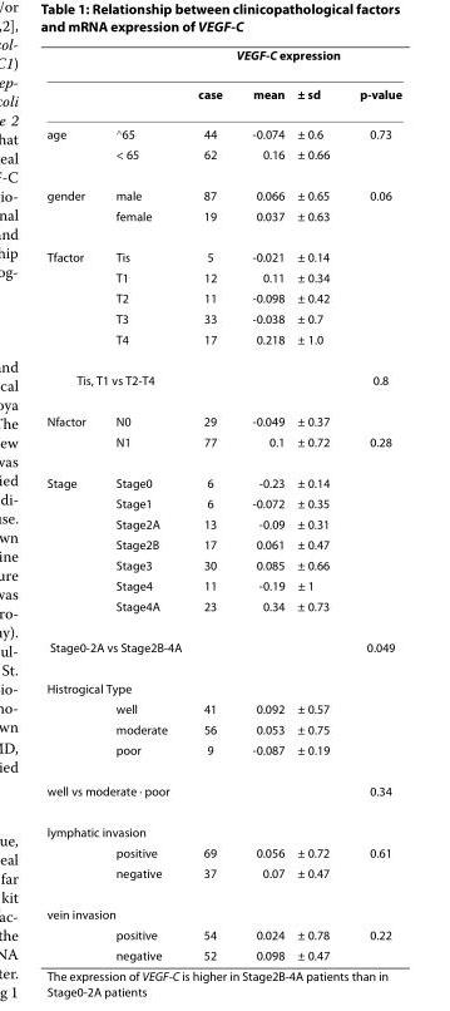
<table><thead><tr><td rowspan="2"></td><td rowspan="2"></td><td rowspan="2">case</td><td colspan="2">VEGF-C expression</td><td rowspan="2">p-value</td></tr><tr><td>mean</td><td>± sd</td></tr></thead><tbody><tr><td rowspan="2">age</td><td>≧65</td><td>44</td><td>-0.074</td><td>± 0.6</td><td>0.73</td></tr><tr><td>&lt; 65</td><td>62</td><td>0.16</td><td>± 0.66</td><td></td></tr><tr><td rowspan="2">gender</td><td>male</td><td>87</td><td>0.066</td><td>± 0.65</td><td>0.06</td></tr><tr><td>female</td><td>19</td><td>0.037</td><td>± 0.63</td><td></td></tr><tr><td rowspan="5">Tfactor</td><td>Tis</td><td>5</td><td>-0.021</td><td>± 0.14</td><td></td></tr><tr><td>T1</td><td>12</td><td>0.11</td><td>± 0.34</td><td></td></tr><tr><td>T2</td><td>11</td><td>-0.098</td><td>± 0.42</td><td></td></tr><tr><td>T3</td><td>33</td><td>-0.038</td><td>± 0.7</td><td></td></tr><tr><td>T4</td><td>17</td><td>0.218</td><td>± 1.0</td><td></td></tr><tr><td colspan="2">Tis, T1 vs T2-T4</td><td></td><td></td><td></td><td>0.8</td></tr><tr><td rowspan="2">Nfactor</td><td>N0</td><td>29</td><td>-0.049</td><td>± 0.37</td><td></td></tr><tr><td>N1</td><td>77</td><td>0.1</td><td>± 0.72</td><td>0.28</td></tr><tr><td rowspan="7">Stage</td><td>Stage0</td><td>6</td><td>-0.23</td><td>± 0.14</td><td></td></tr><tr><td>Stage1</td><td>6</td><td>-0.072</td><td>± 0.35</td><td></td></tr><tr><td>Stage2A</td><td>13</td><td>-0.09</td><td>± 0.31</td><td></td></tr><tr><td>Stage2B</td><td>17</td><td>0.061</td><td>± 0.47</td><td></td></tr><tr><td>Stage3</td><td>30</td><td>0.085</td><td>± 0.66</td><td></td></tr><tr><td>Stage4</td><td>11</td><td>-0.19</td><td>± 1</td><td></td></tr><tr><td>Stage4A</td><td>23</td><td>0.34</td><td>± 0.73</td><td></td></tr><tr><td colspan="2">Stage0-2A vs Stage2B-4A</td><td></td><td></td><td></td><td>0.049</td></tr><tr><td colspan="6">Histrogical Type</td></tr><tr><td></td><td>well</td><td>41</td><td>0.092</td><td>± 0.57</td><td></td></tr><tr><td></td><td>moderate</td><td>56</td><td>0.053</td><td>± 0.75</td><td></td></tr><tr><td></td><td>poor</td><td>9</td><td>-0.087</td><td>± 0.19</td><td></td></tr><tr><td colspan="2">well vs moderate · poor</td><td></td><td></td><td></td><td>0.34</td></tr><tr><td colspan="6">lymphatic invasion</td></tr><tr><td></td><td>positive</td><td>69</td><td>0.056</td><td>± 0.72</td><td>0.61</td></tr><tr><td></td><td>negative</td><td>37</td><td>0.07</td><td>± 0.47</td><td></td></tr><tr><td colspan="6">vein invasion</td></tr><tr><td></td><td>positive</td><td>54</td><td>0.024</td><td>± 0.78</td><td>0.22</td></tr><tr><td></td><td>negative</td><td>52</td><td>0.098</td><td>± 0.47</td><td></td></tr></tbody></table>